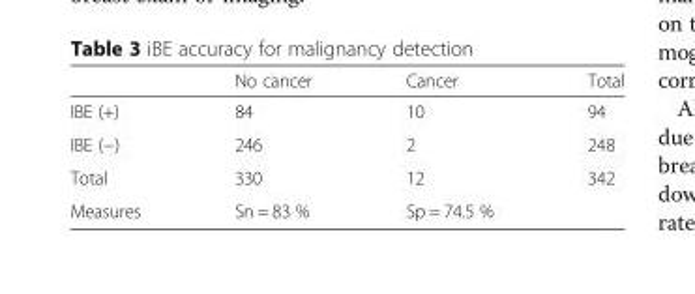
<table><thead><tr><td></td><td>No cancer</td><td>Cancer</td><td>Total</td></tr></thead><tbody><tr><td>IBE (+)</td><td>84</td><td>10</td><td>94</td></tr><tr><td>IBE (−)</td><td>246</td><td>2</td><td>248</td></tr><tr><td>Total</td><td>330</td><td>12</td><td>342</td></tr><tr><td>Measures</td><td>Sn = 83 %</td><td>Sp = 74.5 %</td><td></td></tr></tbody></table>